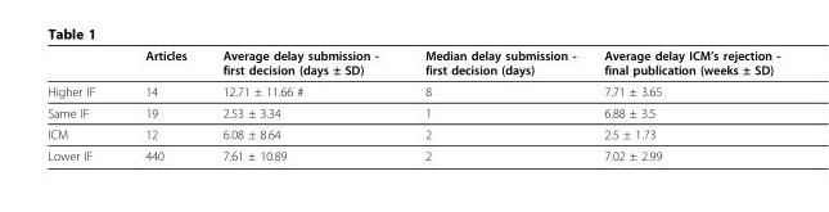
<table><thead><tr><td></td><td>Articles</td><td>Average delay submission - first decision (days ± SD)</td><td>Median delay submission - first decision (days)</td><td>Average delay ICM’s rejection - final publication (weeks ± SD)</td></tr></thead><tbody><tr><td>Higher IF</td><td>14</td><td>12.71 ± 11.66 #</td><td>8</td><td>7.71 ± 3.65</td></tr><tr><td>Same IF</td><td>19</td><td>2.53 ± 3.34</td><td>1</td><td>6.88 ± 3.5</td></tr><tr><td>ICM</td><td>12</td><td>6.08 ± 8.64</td><td>2</td><td>2.5 ± 1.73</td></tr><tr><td>Lower IF</td><td>440</td><td>7.61 ± 10.89</td><td>2</td><td>7.02 ± 2.99</td></tr></tbody></table>